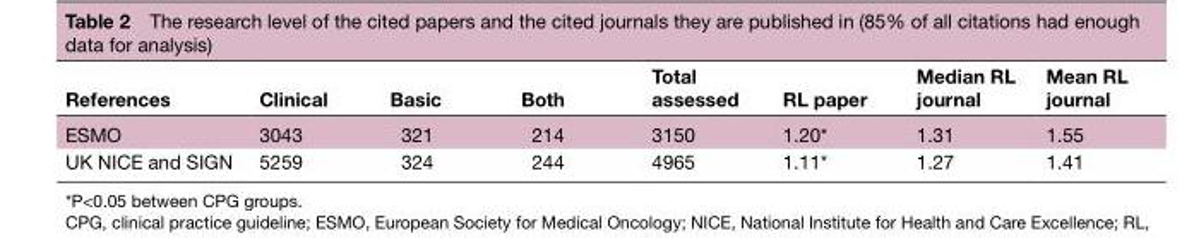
<table><thead><tr><td>References</td><td>Clinical</td><td>Basic</td><td>Both</td><td>Total assessed</td><td>RL paper</td><td>Median RL journal</td><td>Mean RL journal</td></tr></thead><tbody><tr><td>ESMO</td><td>3043</td><td>321</td><td>214</td><td>3150</td><td>1.20*</td><td>1.31</td><td>1.55</td></tr><tr><td>UK NICE and SIGN</td><td>5259</td><td>324</td><td>244</td><td>4965</td><td>1.11*</td><td>1.27</td><td>1.41</td></tr></tbody></table>